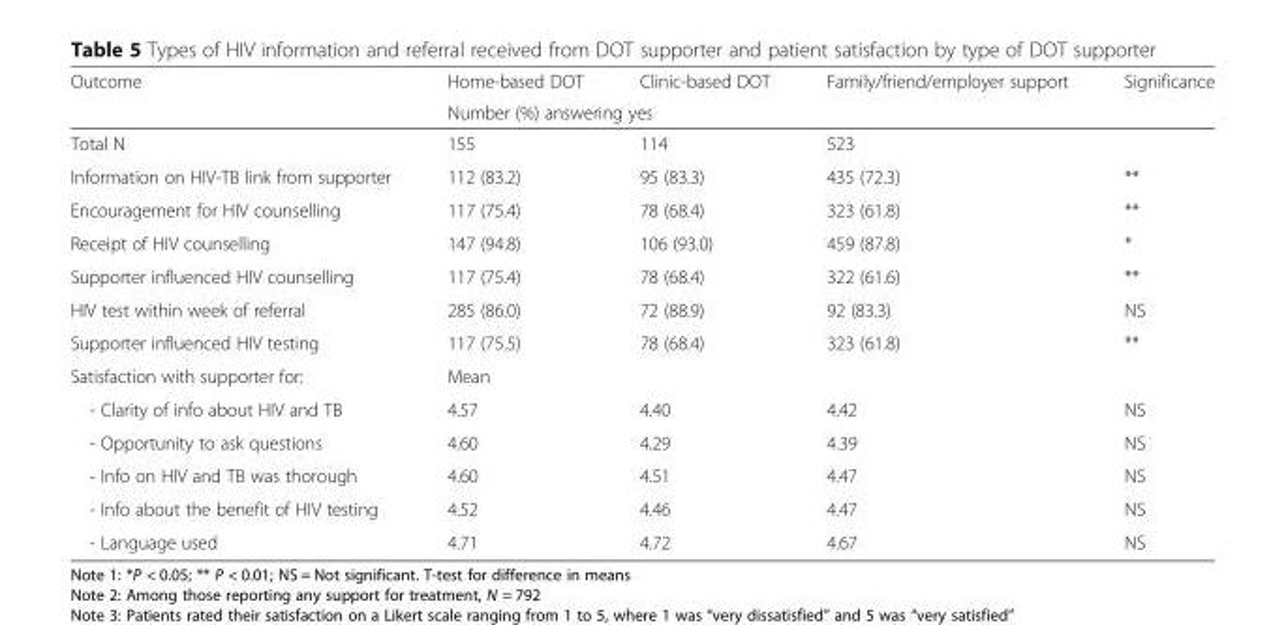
<table><thead><tr><td rowspan="2">Outcome</td><td>Home-based DOT</td><td>Clinic-based DOT</td><td>Family/friend/employer support</td><td>Significance</td></tr><tr><td colspan="4">Number (%) answering yes</td></tr></thead><tbody><tr><td>Total N</td><td>155</td><td>114</td><td>523</td><td></td></tr><tr><td>Information on HIV-TB link from supporter</td><td>112 (83.2)</td><td>95 (83.3)</td><td>435 (72.3)</td><td>**</td></tr><tr><td>Encouragement for HIV counselling</td><td>117 (75.4)</td><td>78 (68.4)</td><td>323 (61.8)</td><td>**</td></tr><tr><td>Receipt of HIV counselling</td><td>147 (94.8)</td><td>106 (93.0)</td><td>459 (87.8)</td><td>*</td></tr><tr><td>Supporter influenced HIV counselling</td><td>117 (75.4)</td><td>78 (68.4)</td><td>322 (61.6)</td><td>**</td></tr><tr><td>HIV test within week of referral</td><td>285 (86.0)</td><td>72 (88.9)</td><td>92 (83.3)</td><td>NS</td></tr><tr><td>Supporter influenced HIV testing</td><td>117 (75.5)</td><td>78 (68.4)</td><td>323 (61.8)</td><td>**</td></tr><tr><td>Satisfaction with supporter for:</td><td colspan="4">Mean</td></tr><tr><td>- Clarity of info about HIV and TB</td><td>4.57</td><td>4.40</td><td>4.42</td><td>NS</td></tr><tr><td>- Opportunity to ask questions</td><td>4.60</td><td>4.29</td><td>4.39</td><td>NS</td></tr><tr><td>- Info on HIV and TB was thorough</td><td>4.60</td><td>4.51</td><td>4.47</td><td>NS</td></tr><tr><td>- Info about the benefit of HIV testing</td><td>4.52</td><td>4.46</td><td>4.47</td><td>NS</td></tr><tr><td>- Language used</td><td>4.71</td><td>4.72</td><td>4.67</td><td>NS</td></tr></tbody></table>